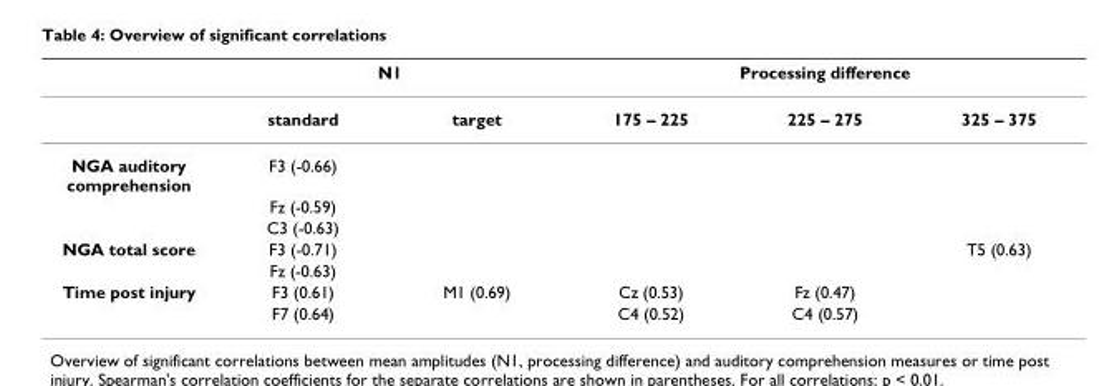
<table><thead><tr><td rowspan="2"></td><td colspan="2">N1</td><td colspan="3">Processing difference</td></tr><tr><td>standard</td><td>target</td><td>175 – 225</td><td>225 – 275</td><td>325 – 375</td></tr></thead><tbody><tr><td rowspan="3">NGA auditory comprehension</td><td>F3 (-0.66)</td><td></td><td></td><td></td><td></td></tr><tr><td>Fz (-0.59)</td><td></td><td></td><td></td><td></td></tr><tr><td>C3 (-0.63)</td><td></td><td></td><td></td><td></td></tr><tr><td rowspan="2">NGA total score</td><td>F3 (-0.71)</td><td></td><td></td><td></td><td>T5 (0.63)</td></tr><tr><td>Fz (-0.63)</td><td></td><td></td><td></td><td></td></tr><tr><td rowspan="2">Time post injury</td><td>F3 (0.61)</td><td>M1 (0.69)</td><td>Cz (0.53)</td><td>Fz (0.47)</td><td></td></tr><tr><td>F7 (0.64)</td><td></td><td>C4 (0.52)</td><td>C4 (0.57)</td><td></td></tr></tbody></table>